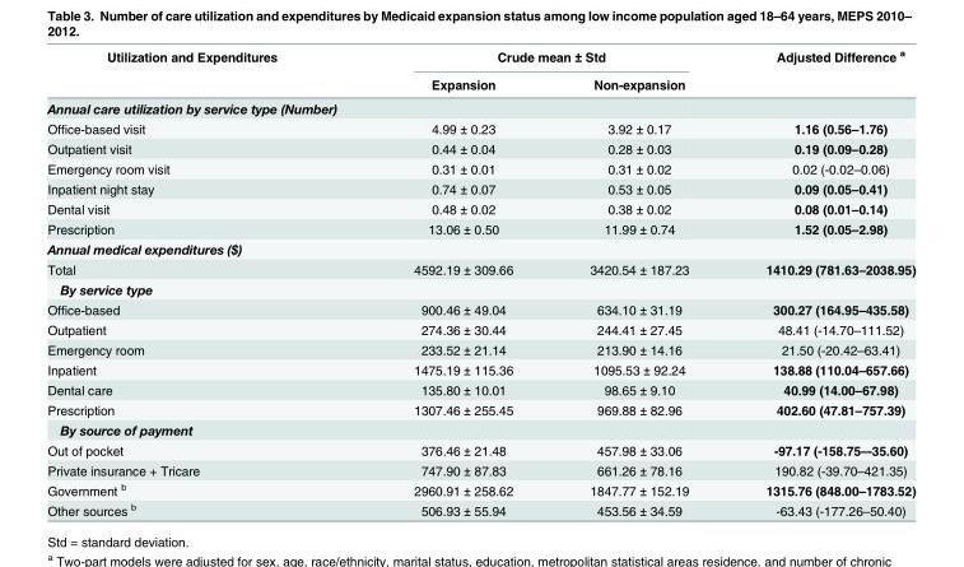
<table><thead><tr><td rowspan="2">Utilization and Expenditures</td><td colspan="2">Crude mean ± Std</td><td rowspan="2">Adjusted Difference <sup>a</sup></td></tr><tr><td>Expansion</td><td>Non-expansion</td></tr></thead><tbody><tr><td colspan="4">Annual care utilization by service type (Number)</td></tr><tr><td>Office-based visit</td><td>4.99 ± 0.23</td><td>3.92 ± 0.17</td><td>1.16 (0.56–1.76)</td></tr><tr><td>Outpatient visit</td><td>0.44 ± 0.04</td><td>0.28 ± 0.03</td><td>0.19 (0.09–0.28)</td></tr><tr><td>Emergency room visit</td><td>0.31 ± 0.01</td><td>0.31 ± 0.02</td><td>0.02 (-0.02–0.06)</td></tr><tr><td>Inpatient night stay</td><td>0.74 ± 0.07</td><td>0.53 ± 0.05</td><td>0.09 (0.05–0.41)</td></tr><tr><td>Dental visit</td><td>0.48 ± 0.02</td><td>0.38 ± 0.02</td><td>0.08 (0.01–0.14)</td></tr><tr><td>Prescription</td><td>13.06 ± 0.50</td><td>11.99 ± 0.74</td><td>1.52 (0.05–2.98)</td></tr><tr><td colspan="4">Annual medical expenditures ($)</td></tr><tr><td>Total</td><td>4592.19 ± 309.66</td><td>3420.54 ± 187.23</td><td>1410.29 (781.63–2038.95)</td></tr><tr><td colspan="4">By service type</td></tr><tr><td>Office-based</td><td>900.46 ± 49.04</td><td>634.10 ± 31.19</td><td>300.27 (164.95–435.58)</td></tr><tr><td>Outpatient</td><td>274.36 ± 30.44</td><td>244.41 ± 27.45</td><td>48.41 (-14.70–111.52)</td></tr><tr><td>Emergency room</td><td>233.52 ± 21.14</td><td>213.90 ± 14.16</td><td>21.50 (-20.42–63.41)</td></tr><tr><td>Inpatient</td><td>1475.19 ± 115.36</td><td>1095.53 ± 92.24</td><td>138.88 (110.04–657.66)</td></tr><tr><td>Dental care</td><td>135.80 ± 10.01</td><td>98.65 ± 9.10</td><td>40.99 (14.00–67.98)</td></tr><tr><td>Prescription</td><td>1307.46 ± 255.45</td><td>969.88 ± 82.96</td><td>402.60 (47.81–757.39)</td></tr><tr><td colspan="4">By source of payment</td></tr><tr><td>Out of pocket</td><td>376.46 ± 21.48</td><td>457.98 ± 33.06</td><td>-97.17 (-158.75–-35.60)</td></tr><tr><td>Private insurance + Tricare</td><td>747.90 ± 87.83</td><td>661.26 ± 78.16</td><td>190.82 (-39.70–421.35)</td></tr><tr><td>Government <sup>b</sup></td><td>2960.91 ± 258.62</td><td>1847.77 ± 152.19</td><td>1315.76 (848.00–1783.52)</td></tr><tr><td>Other sources <sup>b</sup></td><td>506.93 ± 55.94</td><td>453.56 ± 34.59</td><td>-63.43 (-177.26–50.40)</td></tr></tbody></table>